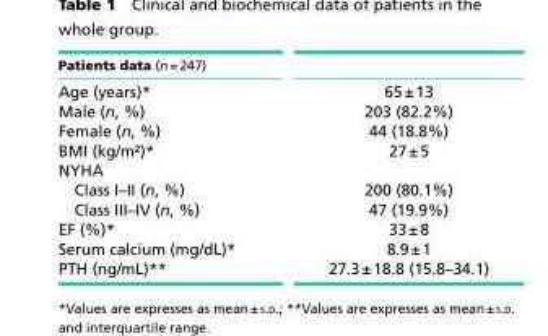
<table><thead><tr><td>Patients data (n = 247)</td><td></td></tr></thead><tbody><tr><td>Age (years)*</td><td>65 ± 13</td></tr><tr><td>Male (n, %)</td><td>203 (82.2%)</td></tr><tr><td>Female (n, %)</td><td>44 (18.8%)</td></tr><tr><td>BMI (kg/m²)*</td><td>27 ± 5</td></tr><tr><td colspan="2">NYHA</td></tr><tr><td>Class I–II (n, %)</td><td>200 (80.1%)</td></tr><tr><td>Class III–IV (n, %)</td><td>47 (19.9%)</td></tr><tr><td>EF (%)*</td><td>33 ± 8</td></tr><tr><td>Serum calcium (mg/dL)*</td><td>8.9 ± 1</td></tr><tr><td>PTH (ng/mL)**</td><td>27.3 ± 18.8 (15.8–34.1)</td></tr></tbody></table>